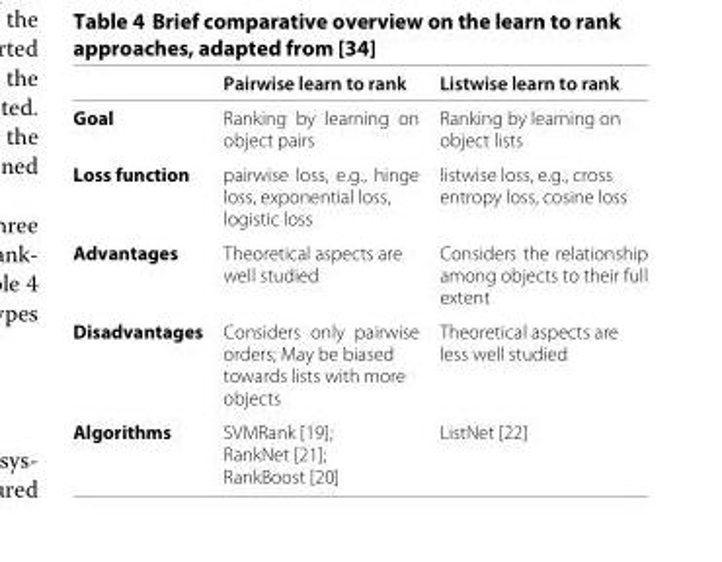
<table><thead><tr><td></td><td>Pairwise learn to rank</td><td>Listwise learn to rank</td></tr></thead><tbody><tr><td>Goal</td><td>Ranking by learning on object pairs</td><td>Ranking by learning on object lists</td></tr><tr><td>Loss function</td><td>pairwise loss, e.g., hinge loss, exponential loss, logistic loss</td><td>listwise loss, e.g., cross entropy loss, cosine loss</td></tr><tr><td>Advantages</td><td>Theoretical aspects are well studied</td><td>Considers the relationship among objects to their full extent</td></tr><tr><td>Disadvantages</td><td>Considers only pairwise orders; May be biased towards lists with more objects</td><td>Theoretical aspects are less well studied</td></tr><tr><td>Algorithms</td><td>SVMRank [19]; RankNet [21]; RankBoost [20]</td><td>ListNet [22]</td></tr></tbody></table>